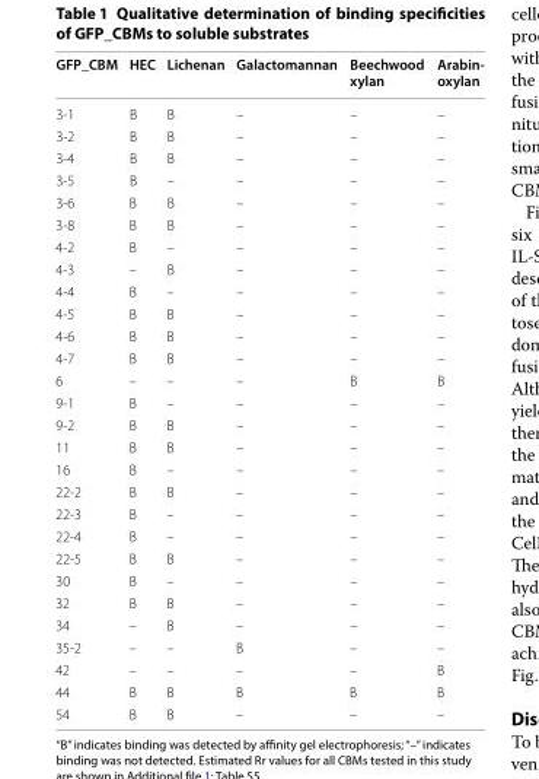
<table><thead><tr><td>GFP_CBM</td><td>HEC</td><td>Lichenan</td><td>Galactomannan</td><td>Beechwood xylan</td><td>Arabin‑ oxylan</td></tr></thead><tbody><tr><td>3-1</td><td>B</td><td>B</td><td>–</td><td>–</td><td>–</td></tr><tr><td>3-2</td><td>B</td><td>B</td><td>–</td><td>–</td><td>–</td></tr><tr><td>3-4</td><td>B</td><td>B</td><td>–</td><td>–</td><td>–</td></tr><tr><td>3-5</td><td>B</td><td>–</td><td>–</td><td>–</td><td>–</td></tr><tr><td>3-6</td><td>B</td><td>B</td><td>–</td><td>–</td><td>–</td></tr><tr><td>3-8</td><td>B</td><td>B</td><td>–</td><td>–</td><td>–</td></tr><tr><td>4-2</td><td>B</td><td>–</td><td>–</td><td>–</td><td>–</td></tr><tr><td>4-3</td><td>–</td><td>B</td><td>–</td><td>–</td><td>–</td></tr><tr><td>4-4</td><td>B</td><td>–</td><td>–</td><td>–</td><td>–</td></tr><tr><td>4-5</td><td>B</td><td>B</td><td>–</td><td>–</td><td>–</td></tr><tr><td>4-6</td><td>B</td><td>B</td><td>–</td><td>–</td><td>–</td></tr><tr><td>4-7</td><td>B</td><td>B</td><td>–</td><td>–</td><td>–</td></tr><tr><td>6</td><td>–</td><td>–</td><td>–</td><td>B</td><td>B</td></tr><tr><td>9-1</td><td>B</td><td>–</td><td>–</td><td>–</td><td>–</td></tr><tr><td>9-2</td><td>B</td><td>B</td><td>–</td><td>–</td><td>–</td></tr><tr><td>11</td><td>B</td><td>B</td><td>–</td><td>–</td><td>–</td></tr><tr><td>16</td><td>B</td><td>–</td><td>–</td><td>–</td><td>–</td></tr><tr><td>22-2</td><td>B</td><td>B</td><td>–</td><td>–</td><td>–</td></tr><tr><td>22-3</td><td>B</td><td>–</td><td>–</td><td>–</td><td>–</td></tr><tr><td>22-4</td><td>B</td><td>–</td><td>–</td><td>–</td><td>–</td></tr><tr><td>22-5</td><td>B</td><td>B</td><td>–</td><td>–</td><td>–</td></tr><tr><td>30</td><td>B</td><td>–</td><td>–</td><td>–</td><td>–</td></tr><tr><td>32</td><td>B</td><td>B</td><td>–</td><td>–</td><td>–</td></tr><tr><td>34</td><td>–</td><td>B</td><td>–</td><td>–</td><td>–</td></tr><tr><td>35-2</td><td>–</td><td>–</td><td>B</td><td>–</td><td>–</td></tr><tr><td>42</td><td>–</td><td>–</td><td>–</td><td>–</td><td>B</td></tr><tr><td>44</td><td>B</td><td>B</td><td>B</td><td>B</td><td>B</td></tr><tr><td>54</td><td>B</td><td>B</td><td>–</td><td>–</td><td>–</td></tr></tbody></table>